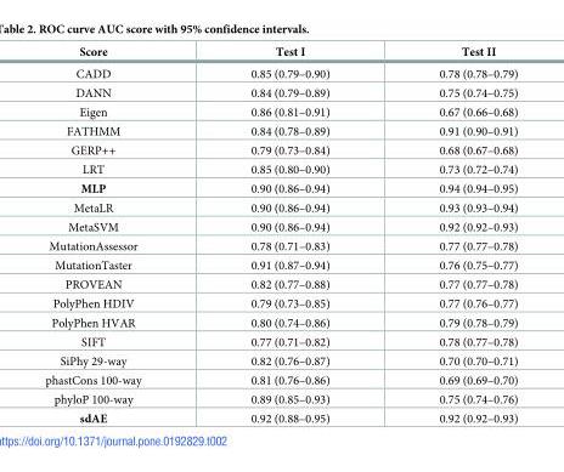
<table><thead><tr><td>Score</td><td>Test I</td><td>Test II</td></tr></thead><tbody><tr><td>CADD</td><td>0.85 (0.79–0.90)</td><td>0.78 (0.78–0.79)</td></tr><tr><td>DANN</td><td>0.84 (0.79–0.89)</td><td>0.75 (0.74–0.75)</td></tr><tr><td>Eigen</td><td>0.86 (0.81–0.91)</td><td>0.67 (0.66–0.68)</td></tr><tr><td>FATHMM</td><td>0.84 (0.78–0.89)</td><td>0.91 (0.90–0.91)</td></tr><tr><td>GERP++</td><td>0.79 (0.73–0.84)</td><td>0.68 (0.67–0.68)</td></tr><tr><td>LRT</td><td>0.85 (0.80–0.90)</td><td>0.73 (0.72–0.74)</td></tr><tr><td>MLP</td><td>0.90 (0.86–0.94)</td><td>0.94 (0.94–0.95)</td></tr><tr><td>MetaLR</td><td>0.90 (0.86–0.94)</td><td>0.93 (0.93–0.94)</td></tr><tr><td>MetaSVM</td><td>0.90 (0.86–0.94)</td><td>0.92 (0.92–0.93)</td></tr><tr><td>MutationAssessor</td><td>0.78 (0.71–0.83)</td><td>0.77 (0.77–0.78)</td></tr><tr><td>MutationTaster</td><td>0.91 (0.87–0.94)</td><td>0.76 (0.75–0.77)</td></tr><tr><td>PROVEAN</td><td>0.82 (0.77–0.88)</td><td>0.77 (0.77–0.78)</td></tr><tr><td>PolyPhen HDIV</td><td>0.79 (0.73–0.85)</td><td>0.77 (0.76–0.77)</td></tr><tr><td>PolyPhen HVAR</td><td>0.80 (0.74–0.86)</td><td>0.79 (0.78–0.79)</td></tr><tr><td>SIFT</td><td>0.77 (0.71–0.82)</td><td>0.78 (0.77–0.78)</td></tr><tr><td>SiPhy 29-way</td><td>0.82 (0.76–0.87)</td><td>0.70 (0.70–0.71)</td></tr><tr><td>phastCons 100-way</td><td>0.81 (0.76–0.86)</td><td>0.69 (0.69–0.70)</td></tr><tr><td>phyloP 100-way</td><td>0.89 (0.85–0.93)</td><td>0.75 (0.74–0.76)</td></tr><tr><td>sdAE</td><td>0.92 (0.88–0.95)</td><td>0.92 (0.92–0.93)</td></tr></tbody></table>